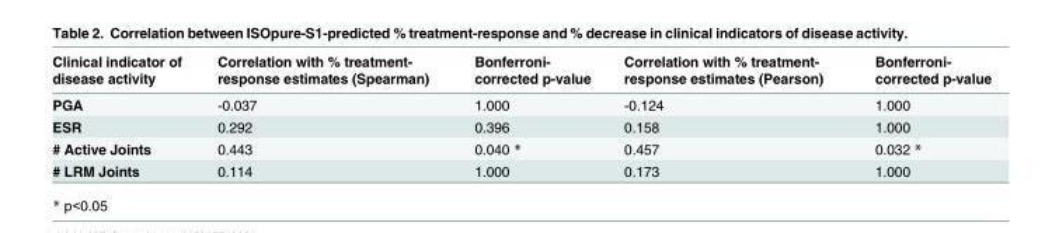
<table><thead><tr><td>Clinical indicator of disease activity</td><td>Correlation with % treatment- response estimates (Spearman)</td><td>Bonferroni- corrected p-value</td><td>Correlation with % treatment- response estimates (Pearson)</td><td>Bonferroni- corrected p-value</td></tr></thead><tbody><tr><td>PGA</td><td>-0.037</td><td>1.000</td><td>-0.124</td><td>1.000</td></tr><tr><td>ESR</td><td>0.292</td><td>0.396</td><td>0.158</td><td>1.000</td></tr><tr><td># Active Joints</td><td>0.443</td><td>0.040 *</td><td>0.457</td><td>0.032 *</td></tr><tr><td># LRM Joints</td><td>0.114</td><td>1.000</td><td>0.173</td><td>1.000</td></tr></tbody></table>